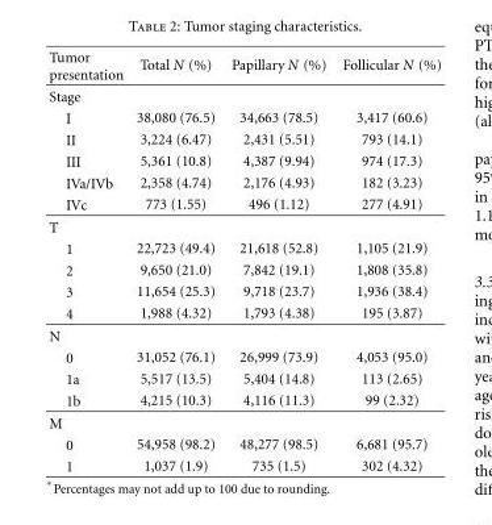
<table><thead><tr><td>Tumor presentation</td><td>Total N (%)</td><td>Papillary N (%)</td><td>Follicular N (%)</td></tr></thead><tbody><tr><td colspan="4">Stage</td></tr><tr><td>I</td><td>38,080 (76.5)</td><td>34,663 (78.5)</td><td>3,417 (60.6)</td></tr><tr><td>II</td><td>3,224 (6.47)</td><td>2,431 (5.51)</td><td>793 (14.1)</td></tr><tr><td>III</td><td>5,361 (10.8)</td><td>4,387 (9.94)</td><td>974 (17.3)</td></tr><tr><td>IVa/IVb</td><td>2,358 (4.74)</td><td>2,176 (4.93)</td><td>182 (3.23)</td></tr><tr><td>IVc</td><td>773 (1.55)</td><td>496 (1.12)</td><td>277 (4.91)</td></tr><tr><td colspan="4">T</td></tr><tr><td>1</td><td>22,723 (49.4)</td><td>21,618 (52.8)</td><td>1,105 (21.9)</td></tr><tr><td>2</td><td>9,650 (21.0)</td><td>7,842 (19.1)</td><td>1,808 (35.8)</td></tr><tr><td>3</td><td>11,654 (25.3)</td><td>9,718 (23.7)</td><td>1,936 (38.4)</td></tr><tr><td>4</td><td>1,988 (4.32)</td><td>1,793 (4.38)</td><td>195 (3.87)</td></tr><tr><td colspan="4">N</td></tr><tr><td>0</td><td>31,052 (76.1)</td><td>26,999 (73.9)</td><td>4,053 (95.0)</td></tr><tr><td>1a</td><td>5,517 (13.5)</td><td>5,404 (14.8)</td><td>113 (2.65)</td></tr><tr><td>1b</td><td>4,215 (10.3)</td><td>4,116 (11.3)</td><td>99 (2.32)</td></tr><tr><td colspan="4">M</td></tr><tr><td>0</td><td>54,958 (98.2)</td><td>48,277 (98.5)</td><td>6,681 (95.7)</td></tr><tr><td>1</td><td>1,037 (1.9)</td><td>735 (1.5)</td><td>302 (4.32)</td></tr></tbody></table>